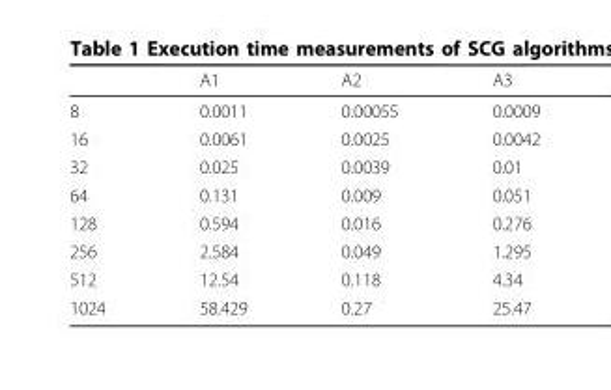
<table><thead><tr><td></td><td>A1</td><td>A2</td><td>A3</td></tr></thead><tbody><tr><td>8</td><td>0.0011</td><td>0.00055</td><td>0.0009</td></tr><tr><td>16</td><td>0.0061</td><td>0.0025</td><td>0.0042</td></tr><tr><td>32</td><td>0.025</td><td>0.0039</td><td>0.01</td></tr><tr><td>64</td><td>0.131</td><td>0.009</td><td>0.051</td></tr><tr><td>128</td><td>0.594</td><td>0.016</td><td>0.276</td></tr><tr><td>256</td><td>2.584</td><td>0.049</td><td>1.295</td></tr><tr><td>512</td><td>12.54</td><td>0.118</td><td>4.34</td></tr><tr><td>1024</td><td>58.429</td><td>0.27</td><td>25.47</td></tr></tbody></table>